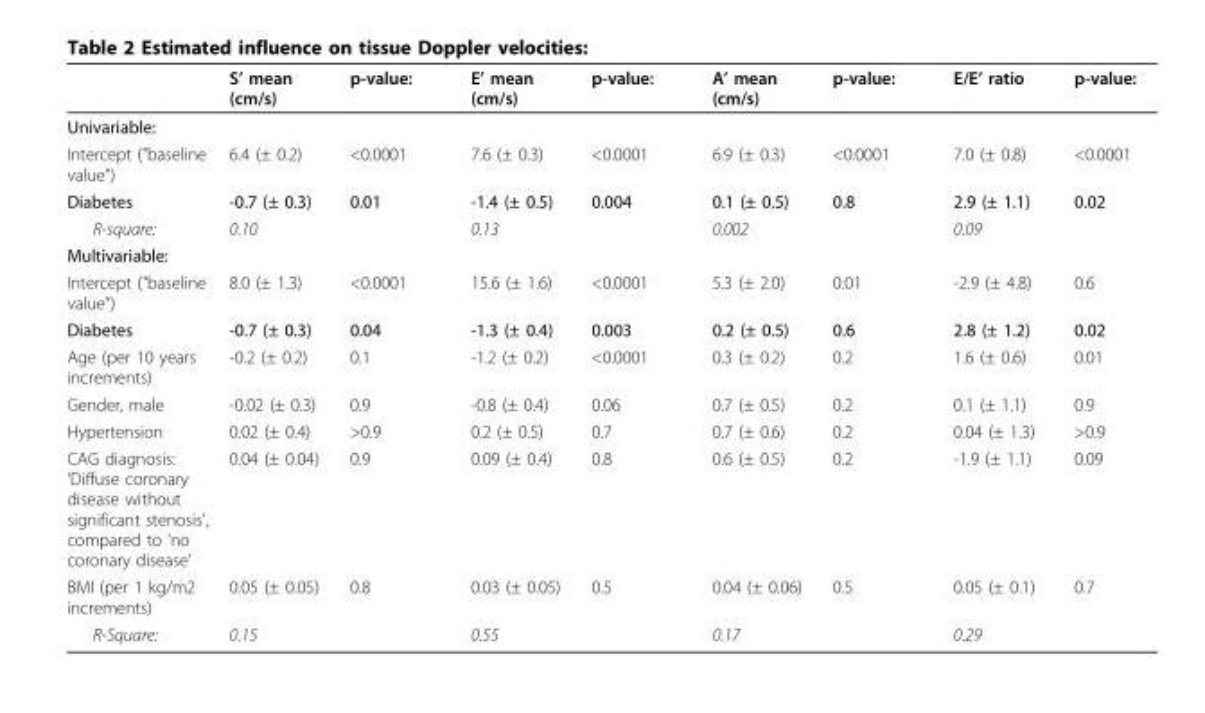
<table><thead><tr><td></td><td>S’ mean (cm/s)</td><td>p-value:</td><td>E’ mean (cm/s)</td><td>p-value:</td><td>A’ mean (cm/s)</td><td>p-value:</td><td>E/E’ ratio</td><td>p-value:</td></tr></thead><tbody><tr><td colspan="9">Univariable:</td></tr><tr><td>Intercept (&quot;baseline value”)</td><td>6.4 (± 0.2)</td><td>&lt;0.0001</td><td>7.6 (± 0.3)</td><td>&lt;0.0001</td><td>6.9 (± 0.3)</td><td>&lt;0.0001</td><td>7.0 (± 0.8)</td><td>&lt;0.0001</td></tr><tr><td>Diabetes</td><td>-0.7 (± 0.3)</td><td>0.01</td><td>-1.4 (± 0.5)</td><td>0.004</td><td>0.1 (± 0.5)</td><td>0.8</td><td>2.9 (± 1.1)</td><td>0.02</td></tr><tr><td>R-square:</td><td>0.10</td><td></td><td>0.13</td><td></td><td>0.002</td><td></td><td>0.09</td><td></td></tr><tr><td colspan="9">Multivariable:</td></tr><tr><td>Intercept (&quot;baseline value”)</td><td>8.0 (± 1.3)</td><td>&lt;0.0001</td><td>15.6 (± 1.6)</td><td>&lt;0.0001</td><td>5.3 (± 2.0)</td><td>0.01</td><td>-2.9 (± 4.8)</td><td>0.6</td></tr><tr><td>Diabetes</td><td>-0.7 (± 0.3)</td><td>0.04</td><td>-1.3 (± 0.4)</td><td>0.003</td><td>0.2 (± 0.5)</td><td>0.6</td><td>2.8 (± 1.2)</td><td>0.02</td></tr><tr><td>Age (per 10 years increments)</td><td>-0.2 (± 0.2)</td><td>0.1</td><td>-1.2 (± 0.2)</td><td>&lt;0.0001</td><td>0.3 (± 0.2)</td><td>0.2</td><td>1.6 (± 0.6)</td><td>0.01</td></tr><tr><td>Gender, male</td><td>-0.02 (± 0.3)</td><td>0.9</td><td>-0.8 (± 0.4)</td><td>0.06</td><td>0.7 (± 0.5)</td><td>0.2</td><td>0.1 (± 1.1)</td><td>0.9</td></tr><tr><td>Hypertension</td><td>0.02 (± 0.4)</td><td>&gt;0.9</td><td>0.2 (± 0.5)</td><td>0.7</td><td>0.7 (± 0.6)</td><td>0.2</td><td>0.04 (± 1.3)</td><td>&gt;0.9</td></tr><tr><td>CAG diagnosis: ‘Diffuse coronary disease without significant stenosis’, compared to ‘no coronary disease’</td><td>0.04 (± 0.04)</td><td>0.9</td><td>0.09 (± 0.4)</td><td>0.8</td><td>0.6 (± 0.5)</td><td>0.2</td><td>-1.9 (± 1.1)</td><td>0.09</td></tr><tr><td>BMI (per 1 kg/m2 increments)</td><td>0.05 (± 0.05)</td><td>0.8</td><td>0.03 (± 0.05)</td><td>0.5</td><td>0.04 (± 0.06)</td><td>0.5</td><td>0.05 (± 0.1)</td><td>0.7</td></tr><tr><td>R-Square:</td><td>0.15</td><td></td><td>0.55</td><td></td><td>0.17</td><td></td><td>0.29</td><td></td></tr></tbody></table>